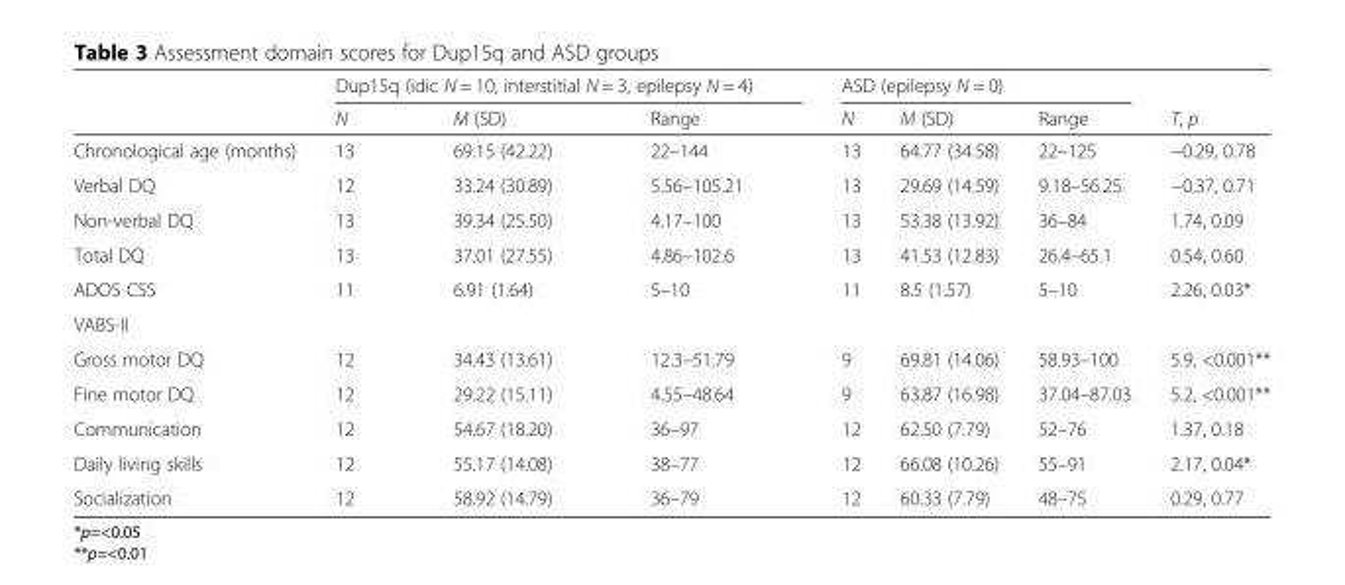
<table><thead><tr><td rowspan="2"></td><td colspan="3">Dup15q (idic N = 10, interstitial N = 3, epilepsy N = 4)</td><td colspan="3">ASD (epilepsy N = 0)</td><td rowspan="2">T, p</td></tr><tr><td>N</td><td>M (SD)</td><td>Range</td><td>N</td><td>M (SD)</td><td>Range</td></tr></thead><tbody><tr><td>Chronological age (months)</td><td>13</td><td>69.15 (42.22)</td><td>22–144</td><td>13</td><td>64.77 (34.58)</td><td>22–125</td><td>−0.29, 0.78</td></tr><tr><td>Verbal DQ</td><td>12</td><td>33.24 (30.89)</td><td>5.56–105.21</td><td>13</td><td>29.69 (14.59)</td><td>9.18–56.25</td><td>−0.37, 0.71</td></tr><tr><td>Non-verbal DQ</td><td>13</td><td>39.34 (25.50)</td><td>4.17–100</td><td>13</td><td>53.38 (13.92)</td><td>36–84</td><td>1.74, 0.09</td></tr><tr><td>Total DQ</td><td>13</td><td>37.01 (27.55)</td><td>4.86–102.6</td><td>13</td><td>41.53 (12.83)</td><td>26.4–65.1</td><td>0.54, 0.60</td></tr><tr><td>ADOS CSS</td><td>11</td><td>6.91 (1.64)</td><td>5–10</td><td>11</td><td>8.5 (1.57)</td><td>5–10</td><td>2.26, 0.03*</td></tr><tr><td colspan="8">VABS-II</td></tr><tr><td>Gross motor DQ</td><td>12</td><td>34.43 (13.61)</td><td>12.3–51.79</td><td>9</td><td>69.81 (14.06)</td><td>58.93–100</td><td>5.9, &lt;0.001**</td></tr><tr><td>Fine motor DQ</td><td>12</td><td>29.22 (15.11)</td><td>4.55–48.64</td><td>9</td><td>63.87 (16.98)</td><td>37.04–87.03</td><td>5.2, &lt;0.001**</td></tr><tr><td>Communication</td><td>12</td><td>54.67 (18.20)</td><td>36–97</td><td>12</td><td>62.50 (7.79)</td><td>52–76</td><td>1.37, 0.18</td></tr><tr><td>Daily living skills</td><td>12</td><td>55.17 (14.08)</td><td>38–77</td><td>12</td><td>66.08 (10.26)</td><td>55–91</td><td>2.17, 0.04*</td></tr><tr><td>Socialization</td><td>12</td><td>58.92 (14.79)</td><td>36–79</td><td>12</td><td>60.33 (7.79)</td><td>48–75</td><td>0.29, 0.77</td></tr></tbody></table>